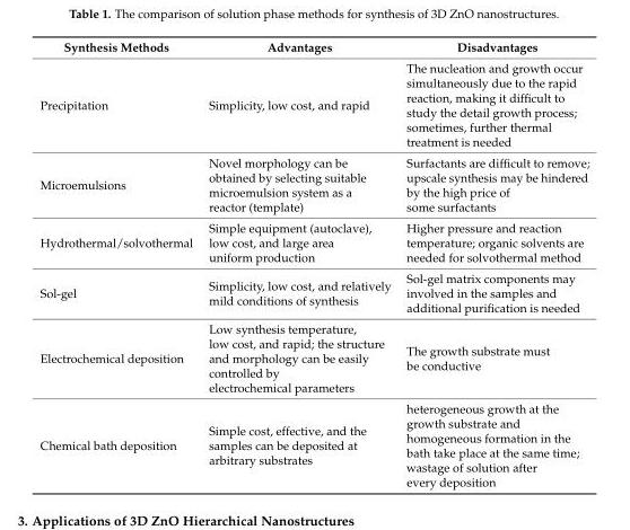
<table><thead><tr><td>Synthesis Methods</td><td>Advantages</td><td>Disadvantages</td></tr></thead><tbody><tr><td>Precipitation</td><td>Simplicity, low cost, and rapid</td><td>The nucleation and growth occur simultaneously due to the rapid reaction, making it difficult to study the detail growth process; sometimes, further thermal treatment is needed</td></tr><tr><td>Microemulsions</td><td>Novel morphology can be obtained by selecting suitable microemulsion system as a reactor (template)</td><td>Surfactants are difficult to remove; upscale synthesis may be hindered by the high price of some surfactants</td></tr><tr><td>Hydrothermal/solvothermal</td><td>Simple equipment (autoclave), low cost, and large area uniform production</td><td>Higher pressure and reaction temperature; organic solvents are needed for solvothermal method</td></tr><tr><td>Sol-gel</td><td>Simplicity, low cost, and relatively mild conditions of synthesis</td><td>Sol-gel matrix components may involved in the samples and additional purification is needed</td></tr><tr><td>Electrochemical deposition</td><td>Low synthesis temperature, low cost, and rapid; the structure and morphology can be easily controlled by electrochemical parameters</td><td>The growth substrate must be conductive</td></tr><tr><td>Chemical bath deposition</td><td>Simple cost, effective, and the samples can be deposited at arbitrary substrates</td><td>heterogeneous growth at the growth substrate and homogeneous formation in the bath take place at the same time; wastage of solution after every deposition</td></tr></tbody></table>